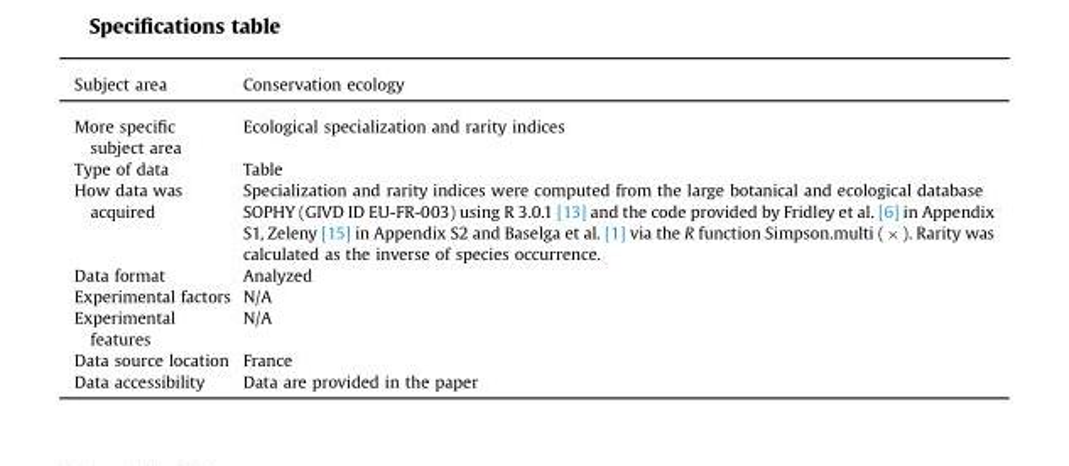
<table><thead><tr><td>Subject area</td><td>Conservation ecology</td></tr></thead><tbody><tr><td>More specific subject area</td><td>Ecological specialization and rarity indices</td></tr><tr><td>Type of data</td><td>Table</td></tr><tr><td>How data was acquired</td><td>Specialization and rarity indices were computed from the large botanical and ecological database SOPHY (GIVD ID EU-FR-003) using R 3.0.1 [13] and the code provided by Fridley et al. [6] in Appendix S1, Zeleny [15] in Appendix S2 and Baselga et al. [1] via the R function Simpson.multi ( × ). Rarity was calculated as the inverse of species occurrence.</td></tr><tr><td>Data format</td><td>Analyzed</td></tr><tr><td>Experimental factors</td><td>N/A</td></tr><tr><td>Experimental features</td><td>N/A</td></tr><tr><td>Data source location</td><td>France</td></tr><tr><td>Data accessibility</td><td>Data are provided in the paper</td></tr></tbody></table>